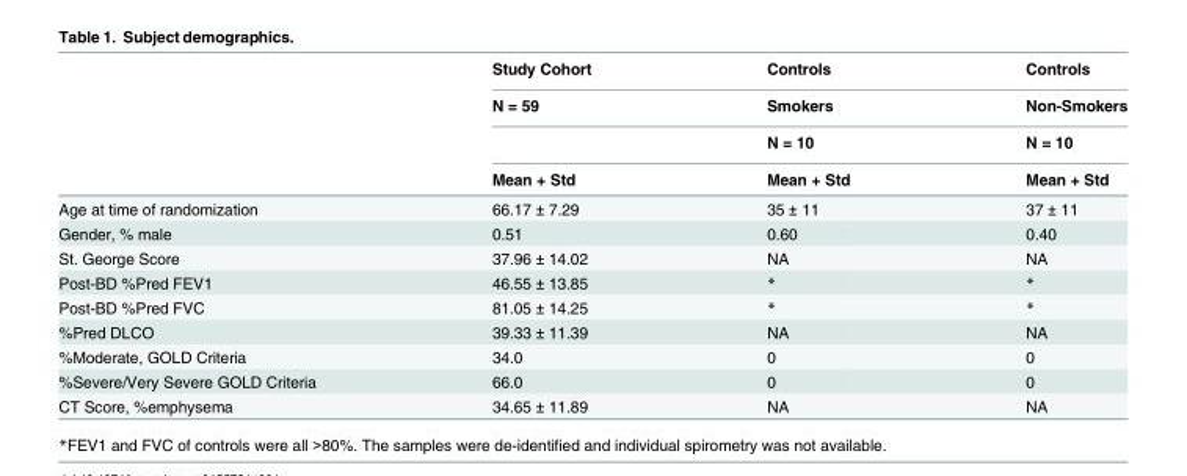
<table><thead><tr><td rowspan="4"></td><td rowspan="4">Study Cohort N = 59 Mean + Std</td><td rowspan="4">Controls Smokers N = 10 Mean + Std</td><td rowspan="4">Controls Non-Smokers N = 10 Mean + Std</td></tr><tr></tr><tr></tr><tr></tr></thead><tbody><tr><td>Age at time of randomization</td><td>66.17 ± 7.29</td><td>35 ± 11</td><td>37 ± 11</td></tr><tr><td>Gender, % male</td><td>0.51</td><td>0.60</td><td>0.40</td></tr><tr><td>St. George Score</td><td>37.96 ± 14.02</td><td>NA</td><td>NA</td></tr><tr><td>Post-BD %Pred FEV1</td><td>46.55 ± 13.85</td><td>*</td><td>*</td></tr><tr><td>Post-BD %Pred FVC</td><td>81.05 ± 14.25</td><td>*</td><td>*</td></tr><tr><td>%Pred DLCO</td><td>39.33 ± 11.39</td><td>NA</td><td>NA</td></tr><tr><td>%Moderate, GOLD Criteria</td><td>34.0</td><td>0</td><td>0</td></tr><tr><td>%Severe/Very Severe GOLD Criteria</td><td>66.0</td><td>0</td><td>0</td></tr><tr><td>CT Score, %emphysema</td><td>34.65 ± 11.89</td><td>NA</td><td>NA</td></tr></tbody></table>